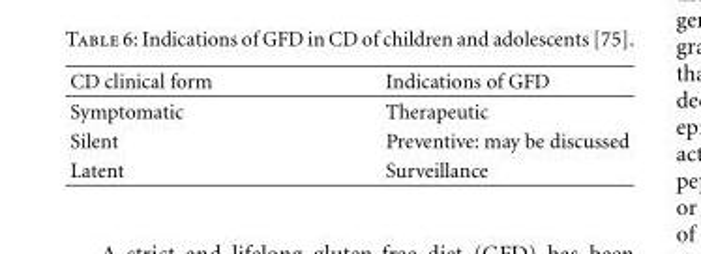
<table><thead><tr><td>CD clinical form</td><td>Indications of GFD</td></tr></thead><tbody><tr><td>Symptomatic</td><td>Therapeutic</td></tr><tr><td>Silent</td><td>Preventive: may be discussed</td></tr><tr><td>Latent</td><td>Surveillance</td></tr></tbody></table>